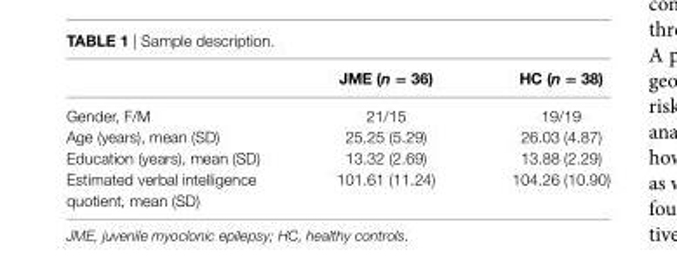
<table><thead><tr><td></td><td>JMe (n = 36)</td><td>hc (n = 38)</td></tr></thead><tbody><tr><td>Gender, F/M</td><td>21/15</td><td>19/19</td></tr><tr><td>Age (years), mean (SD)</td><td>25.25 (5.29)</td><td>26.03 (4.87)</td></tr><tr><td>Education (years), mean (SD)</td><td>13.32 (2.69)</td><td>13.88 (2.29)</td></tr><tr><td>Estimated verbal intelligence quotient, mean (SD)</td><td>101.61 (11.24)</td><td>104.26 (10.90)</td></tr></tbody></table>